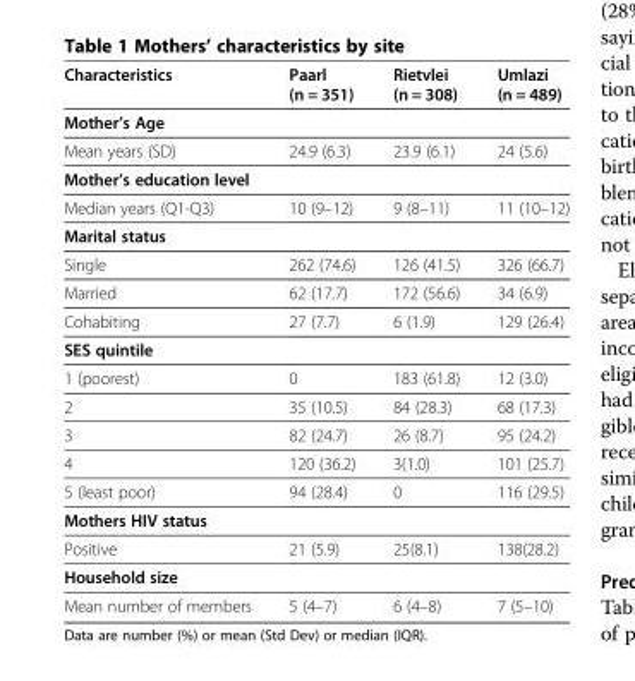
<table><thead><tr><td>Characteristics</td><td>Paarl (n = 351)</td><td>Rietvlei (n = 308)</td><td>Umlazi (n = 489)</td></tr></thead><tbody><tr><td colspan="4">Mother’s Age</td></tr><tr><td>Mean years (SD)</td><td>24.9 (6.3)</td><td>23.9 (6.1)</td><td>24 (5.6)</td></tr><tr><td colspan="4">Mother’s education level</td></tr><tr><td>Median years (Q1-Q3)</td><td>10 (9–12)</td><td>9 (8–11)</td><td>11 (10–12)</td></tr><tr><td colspan="4">Marital status</td></tr><tr><td>Single</td><td>262 (74.6)</td><td>126 (41.5)</td><td>326 (66.7)</td></tr><tr><td>Married</td><td>62 (17.7)</td><td>172 (56.6)</td><td>34 (6.9)</td></tr><tr><td>Cohabiting</td><td>27 (7.7)</td><td>6 (1.9)</td><td>129 (26.4)</td></tr><tr><td colspan="4">SES quintile</td></tr><tr><td>1 (poorest)</td><td>0</td><td>183 (61.8)</td><td>12 (3.0)</td></tr><tr><td>2</td><td>35 (10.5)</td><td>84 (28.3)</td><td>68 (17.3)</td></tr><tr><td>3</td><td>82 (24.7)</td><td>26 (8.7)</td><td>95 (24.2)</td></tr><tr><td>4</td><td>120 (36.2)</td><td>3(1.0)</td><td>101 (25.7)</td></tr><tr><td>5 (least poor)</td><td>94 (28.4)</td><td>0</td><td>116 (29.5)</td></tr><tr><td colspan="4">Mothers HIV status</td></tr><tr><td>Positive</td><td>21 (5.9)</td><td>25(8.1)</td><td>138(28.2)</td></tr><tr><td colspan="4">Household size</td></tr><tr><td>Mean number of members</td><td>5 (4–7)</td><td>6 (4–8)</td><td>7 (5–10)</td></tr></tbody></table>